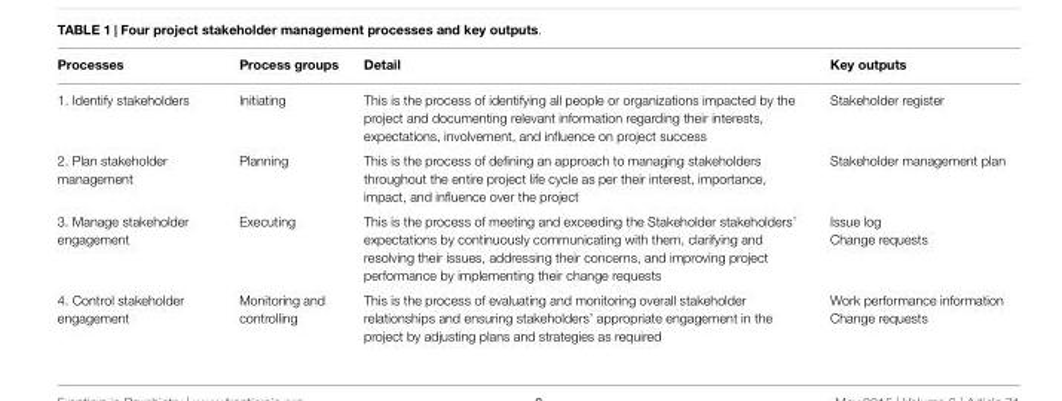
<table><thead><tr><td>Processes</td><td>Process groups</td><td>Detail</td><td>Key outputs</td></tr></thead><tbody><tr><td>1. Identify stakeholders</td><td>Initiating</td><td>This is the process of identifying all people or organizations impacted by the project and documenting relevant information regarding their interests, expectations, involvement, and influence on project success</td><td>Stakeholder register</td></tr><tr><td>2. Plan stakeholder management</td><td>Planning</td><td>This is the process of defining an approach to managing stakeholders throughout the entire project life cycle as per their interest, importance, impact, and influence over the project</td><td>Stakeholder management plan</td></tr><tr><td>3. Manage stakeholder engagement</td><td>Executing</td><td>This is the process of meeting and exceeding the Stakeholder stakeholders’ expectations by continuously communicating with them, clarifying and resolving their issues, addressing their concerns, and improving project performance by implementing their change requests</td><td>Issue log Change requests</td></tr><tr><td>4. Control stakeholder engagement</td><td>Monitoring and controlling</td><td>This is the process of evaluating and monitoring overall stakeholder relationships and ensuring stakeholders’ appropriate engagement in the project by adjusting plans and strategies as required</td><td>Work performance information Change requests</td></tr></tbody></table>